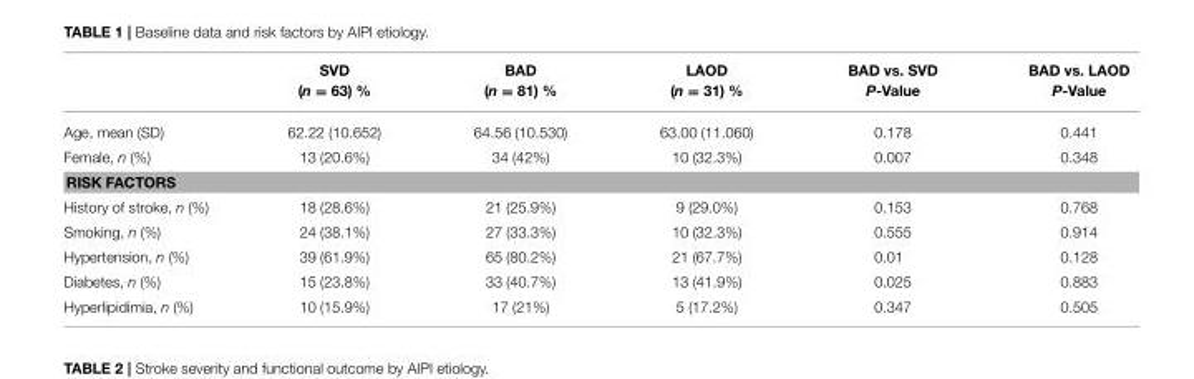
<table><thead><tr><td></td><td>SVD (n = 63) %</td><td>BAD (n = 81) %</td><td>LAOD (n = 31) %</td><td>BAD vs. SVD P-Value</td><td>BAD vs. LAOD P-Value</td></tr></thead><tbody><tr><td>Age, mean (SD)</td><td>62.22 (10.652)</td><td>64.56 (10.530)</td><td>63.00 (11.060)</td><td>0.178</td><td>0.441</td></tr><tr><td>Female, n (%)</td><td>13 (20.6%)</td><td>34 (42%)</td><td>10 (32.3%)</td><td>0.007</td><td>0.348</td></tr><tr><td colspan="6">RISK FACTORS</td></tr><tr><td>History of stroke, n (%)</td><td>18 (28.6%)</td><td>21 (25.9%)</td><td>9 (29.0%)</td><td>0.153</td><td>0.768</td></tr><tr><td>Smoking, n (%)</td><td>24 (38.1%)</td><td>27 (33.3%)</td><td>10 (32.3%)</td><td>0.555</td><td>0.914</td></tr><tr><td>Hypertension, n (%)</td><td>39 (61.9%)</td><td>65 (80.2%)</td><td>21 (67.7%)</td><td>0.01</td><td>0.128</td></tr><tr><td>Diabetes, n (%)</td><td>15 (23.8%)</td><td>33 (40.7%)</td><td>13 (41.9%)</td><td>0.025</td><td>0.883</td></tr><tr><td>Hyperlipidimia, n (%)</td><td>10 (15.9%)</td><td>17 (21%)</td><td>5 (17.2%)</td><td>0.347</td><td>0.505</td></tr></tbody></table>